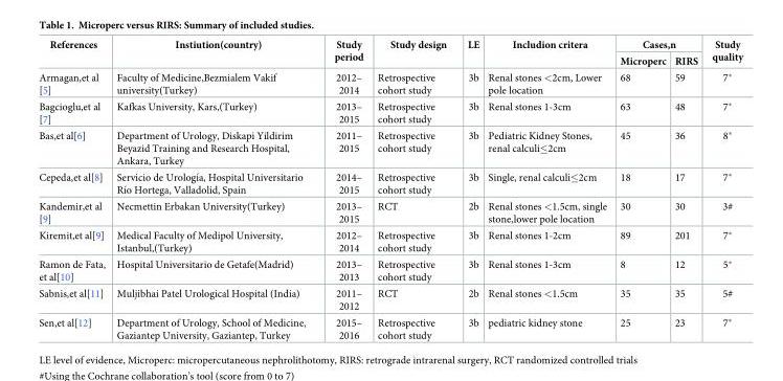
<table><thead><tr><td rowspan="2">References</td><td rowspan="2">Instiution(country)</td><td rowspan="2">Study period</td><td rowspan="2">Study design</td><td rowspan="2">LE</td><td rowspan="2">Includion critera</td><td colspan="2">Cases,n</td><td rowspan="2">Study quality</td></tr><tr><td>Microperc</td><td>RIRS</td></tr></thead><tbody><tr><td>Armagan,et al [5]</td><td>Faculty of Medicine,Bezmialem Vakif university(Turkey)</td><td>2012– 2014</td><td>Retrospective cohort study</td><td>3b</td><td>Renal stones &lt;2cm, Lower pole location</td><td>68</td><td>59</td><td>7*</td></tr><tr><td>Bagcioglu,et al [7]</td><td>Kafkas University, Kars,(Turkey)</td><td>2013– 2015</td><td>Retrospective cohort study</td><td>3b</td><td>Renal stones 1-3cm</td><td>63</td><td>48</td><td>7*</td></tr><tr><td>Bas,et al[6]</td><td>Department of Urology, Diskapi Yildirim Beyazid Training and Research Hospital, Ankara, Turkey</td><td>2011– 2015</td><td>Retrospective cohort study</td><td>3b</td><td>Pediatric Kidney Stones, renal calculi≤2cm</td><td>45</td><td>36</td><td>8*</td></tr><tr><td>Cepeda,et al[8]</td><td>Servicio de Urologı´a, Hospital Universitario Rı´o Hortega, Valladolid, Spain</td><td>2014– 2015</td><td>Retrospective cohort study</td><td>3b</td><td>Single, renal calculi≤2cm</td><td>18</td><td>17</td><td>7*</td></tr><tr><td>Kandemir,et al [9]</td><td>Necmettin Erbakan University(Turkey)</td><td>2013– 2015</td><td>RCT</td><td>2b</td><td>Renal stones &lt;1.5cm, single stone,lower pole location</td><td>30</td><td>30</td><td>3#</td></tr><tr><td>Kiremit,et al[9]</td><td>Medical Faculty of Medipol University, Istanbul,(Turkey)</td><td>2012– 2014</td><td>Retrospective cohort study</td><td>3b</td><td>Renal stones 1-2cm</td><td>89</td><td>201</td><td>7*</td></tr><tr><td>Ramon de Fata, et al[10]</td><td>Hospital Universitario de Getafe(Madrid)</td><td>2013– 2013</td><td>Retrospective cohort study</td><td>3b</td><td>Renal stones 1-3cm</td><td>8</td><td>12</td><td>5*</td></tr><tr><td>Sabnis,et al[11]</td><td>Muljibhai Patel Urological Hospital (India)</td><td>2011– 2012</td><td>RCT</td><td>2b</td><td>Renal stones &lt;1.5cm</td><td>35</td><td>35</td><td>5#</td></tr><tr><td>Sen,et al[12]</td><td>Department of Urology, School of Medicine, Gaziantep University, Gaziantep, Turkey</td><td>2015– 2016</td><td>Retrospective cohort study</td><td>3b</td><td>pediatric kidney stone</td><td>25</td><td>23</td><td>7*</td></tr></tbody></table>